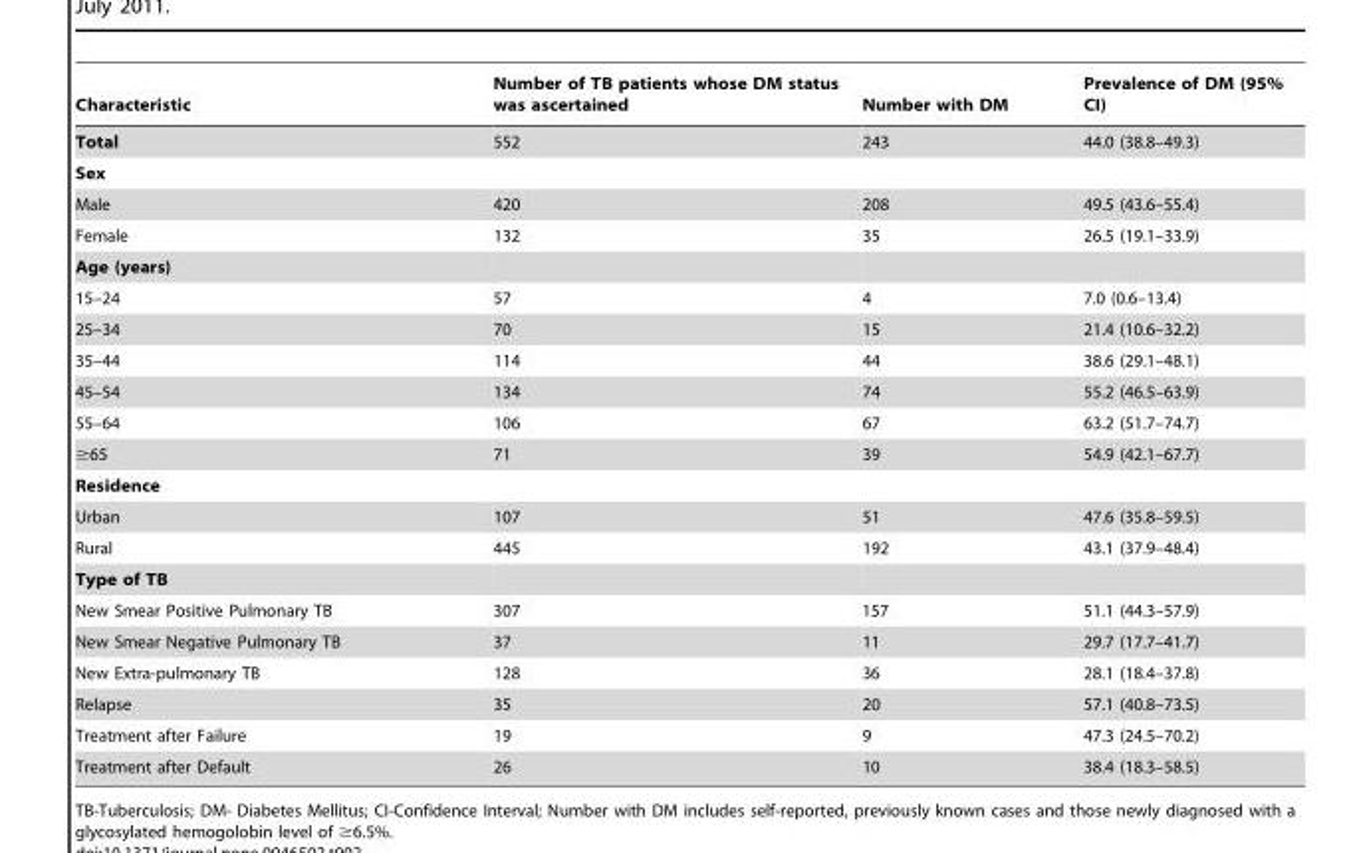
<table><thead><tr><td>Characteristic</td><td>Number of TB patients whose DM status was ascertained</td><td>Number with DM</td><td>Prevalence of DM (95% CI)</td></tr></thead><tbody><tr><td>Total</td><td>552</td><td>243</td><td>44.0 (38.8–49.3)</td></tr><tr><td colspan="4">Sex</td></tr><tr><td>Male</td><td>420</td><td>208</td><td>49.5 (43.6–55.4)</td></tr><tr><td>Female</td><td>132</td><td>35</td><td>26.5 (19.1–33.9)</td></tr><tr><td colspan="4">Age (years)</td></tr><tr><td>15–24</td><td>57</td><td>4</td><td>7.0 (0.6–13.4)</td></tr><tr><td>25–34</td><td>70</td><td>15</td><td>21.4 (10.6–32.2)</td></tr><tr><td>35–44</td><td>114</td><td>44</td><td>38.6 (29.1–48.1)</td></tr><tr><td>45–54</td><td>134</td><td>74</td><td>55.2 (46.5–63.9)</td></tr><tr><td>55–64</td><td>106</td><td>67</td><td>63.2 (51.7–74.7)</td></tr><tr><td>≥65</td><td>71</td><td>39</td><td>54.9 (42.1–67.7)</td></tr><tr><td colspan="4">Residence</td></tr><tr><td>Urban</td><td>107</td><td>51</td><td>47.6 (35.8–59.5)</td></tr><tr><td>Rural</td><td>445</td><td>192</td><td>43.1 (37.9–48.4)</td></tr><tr><td colspan="4">Type of TB</td></tr><tr><td>New Smear Positive Pulmonary TB</td><td>307</td><td>157</td><td>51.1 (44.3–57.9)</td></tr><tr><td>New Smear Negative Pulmonary TB</td><td>37</td><td>11</td><td>29.7 (17.7–41.7)</td></tr><tr><td>New Extra-pulmonary TB</td><td>128</td><td>36</td><td>28.1 (18.4–37.8)</td></tr><tr><td>Relapse</td><td>35</td><td>20</td><td>57.1 (40.8–73.5)</td></tr><tr><td>Treatment after Failure</td><td>19</td><td>9</td><td>47.3 (24.5–70.2)</td></tr><tr><td>Treatment after Default</td><td>26</td><td>10</td><td>38.4 (18.3–58.5)</td></tr></tbody></table>